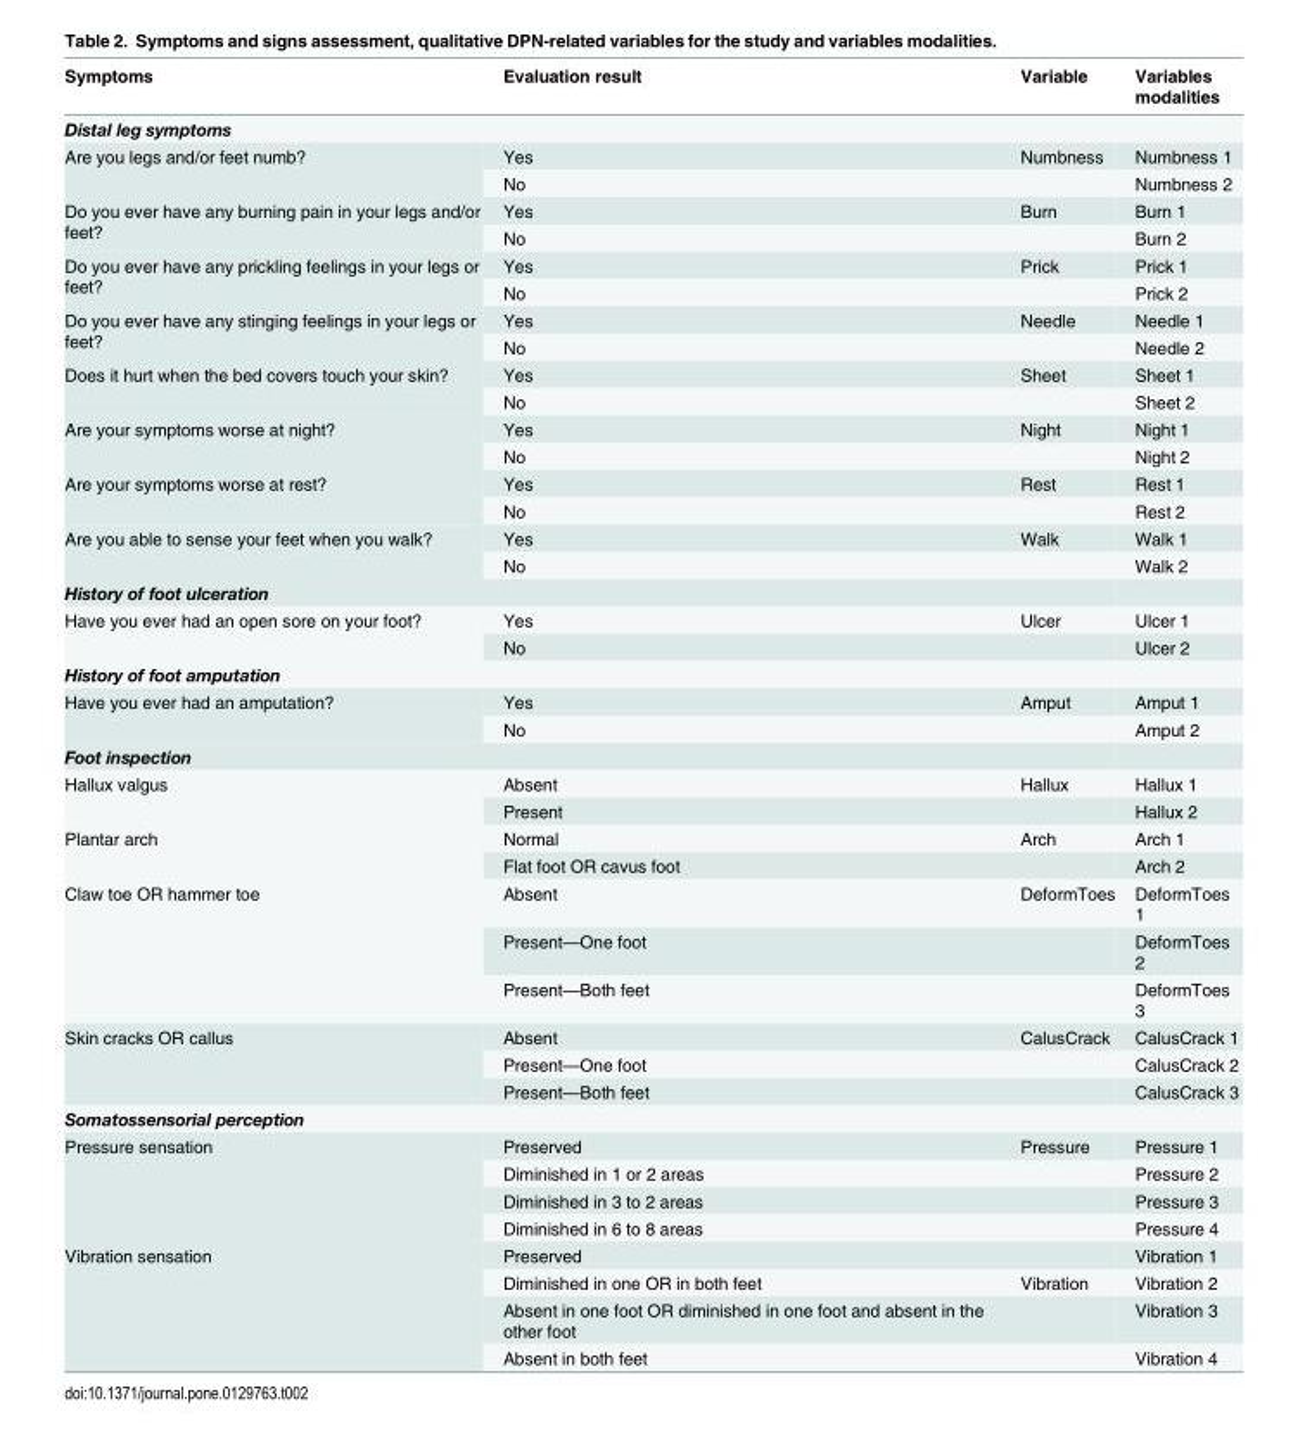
<table><thead><tr><td>Symptoms</td><td>Evaluation result</td><td>Variable</td><td>Variables modalities</td></tr></thead><tbody><tr><td colspan="4">Distal leg symptoms</td></tr><tr><td rowspan="2">Are you legs and/or feet numb?</td><td>Yes</td><td>Numbness</td><td>Numbness 1</td></tr><tr><td>No</td><td></td><td>Numbness 2</td></tr><tr><td rowspan="2">Do you ever have any burning pain in your legs and/or feet?</td><td>Yes</td><td>Burn</td><td>Burn 1</td></tr><tr><td>No</td><td></td><td>Burn 2</td></tr><tr><td rowspan="2">Do you ever have any prickling feelings in your legs or feet?</td><td>Yes</td><td>Prick</td><td>Prick 1</td></tr><tr><td>No</td><td></td><td>Prick 2</td></tr><tr><td rowspan="2">Do you ever have any stinging feelings in your legs or feet?</td><td>Yes</td><td>Needle</td><td>Needle 1</td></tr><tr><td>No</td><td></td><td>Needle 2</td></tr><tr><td rowspan="2">Does it hurt when the bed covers touch your skin?</td><td>Yes</td><td>Sheet</td><td>Sheet 1</td></tr><tr><td>No</td><td></td><td>Sheet 2</td></tr><tr><td rowspan="2">Are your symptoms worse at night?</td><td>Yes</td><td>Night</td><td>Night 1</td></tr><tr><td>No</td><td></td><td>Night 2</td></tr><tr><td rowspan="2">Are your symptoms worse at rest?</td><td>Yes</td><td>Rest</td><td>Rest 1</td></tr><tr><td>No</td><td></td><td>Rest 2</td></tr><tr><td rowspan="2">Are you able to sense your feet when you walk?</td><td>Yes</td><td>Walk</td><td>Walk 1</td></tr><tr><td>No</td><td></td><td>Walk 2</td></tr><tr><td colspan="4">History of foot ulceration</td></tr><tr><td rowspan="2">Have you ever had an open sore on your foot?</td><td>Yes</td><td>Ulcer</td><td>Ulcer 1</td></tr><tr><td>No</td><td></td><td>Ulcer 2</td></tr><tr><td colspan="4">History of foot amputation</td></tr><tr><td rowspan="2">Have you ever had an amputation?</td><td>Yes</td><td>Amput</td><td>Amput 1</td></tr><tr><td>No</td><td></td><td>Amput 2</td></tr><tr><td colspan="4">Foot inspection</td></tr><tr><td rowspan="2">Hallux valgus</td><td>Absent</td><td>Hallux</td><td>Hallux 1</td></tr><tr><td>Present</td><td></td><td>Hallux 2</td></tr><tr><td rowspan="2">Plantar arch</td><td>Normal</td><td>Arch</td><td>Arch 1</td></tr><tr><td>Flat foot OR cavus foot</td><td></td><td>Arch 2</td></tr><tr><td rowspan="3">Claw toe OR hammer toe</td><td>Absent</td><td>DeformToes</td><td>DeformToes 1</td></tr><tr><td>Present—One foot</td><td></td><td>DeformToes 2</td></tr><tr><td>Present—Both feet</td><td></td><td>DeformToes 3</td></tr><tr><td rowspan="3">Skin cracks OR callus</td><td>Absent</td><td>CalusCrack</td><td>CalusCrack 1</td></tr><tr><td>Present—One foot</td><td></td><td>CalusCrack 2</td></tr><tr><td>Present—Both feet</td><td></td><td>CalusCrack 3</td></tr><tr><td colspan="4">Somatossensorial perception</td></tr><tr><td rowspan="4">Pressure sensation</td><td>Preserved</td><td>Pressure</td><td>Pressure 1</td></tr><tr><td>Diminished in 1 or 2 areas</td><td></td><td>Pressure 2</td></tr><tr><td>Diminished in 3 to 2 areas</td><td></td><td>Pressure 3</td></tr><tr><td>Diminished in 6 to 8 areas</td><td></td><td>Pressure 4</td></tr><tr><td rowspan="4">Vibration sensation</td><td>Preserved</td><td></td><td>Vibration 1</td></tr><tr><td>Diminished in one OR in both feet</td><td>Vibration</td><td>Vibration 2</td></tr><tr><td>Absent in one foot OR diminished in one foot and absent in the other foot</td><td></td><td>Vibration 3</td></tr><tr><td>Absent in both feet</td><td></td><td>Vibration 4</td></tr></tbody></table>